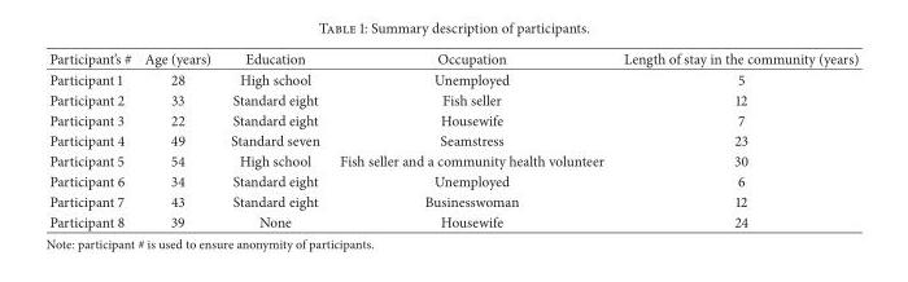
<table><thead><tr><td>Participant’s #</td><td>Age (years)</td><td>Education</td><td>Occupation</td><td>Length of stay in the community (years)</td></tr></thead><tbody><tr><td>Participant 1</td><td>28</td><td>High school</td><td>Unemployed</td><td>5</td></tr><tr><td>Participant 2</td><td>33</td><td>Standard eight</td><td>Fish seller</td><td>12</td></tr><tr><td>Participant 3</td><td>22</td><td>Standard eight</td><td>Housewife</td><td>7</td></tr><tr><td>Participant 4</td><td>49</td><td>Standard seven</td><td>Seamstress</td><td>23</td></tr><tr><td>Participant 5</td><td>54</td><td>High school</td><td>Fish seller and a community health volunteer</td><td>30</td></tr><tr><td>Participant 6</td><td>34</td><td>Standard eight</td><td>Unemployed</td><td>6</td></tr><tr><td>Participant 7</td><td>43</td><td>Standard eight</td><td>Businesswoman</td><td>12</td></tr><tr><td>Participant 8</td><td>39</td><td>None</td><td>Housewife</td><td>24</td></tr></tbody></table>